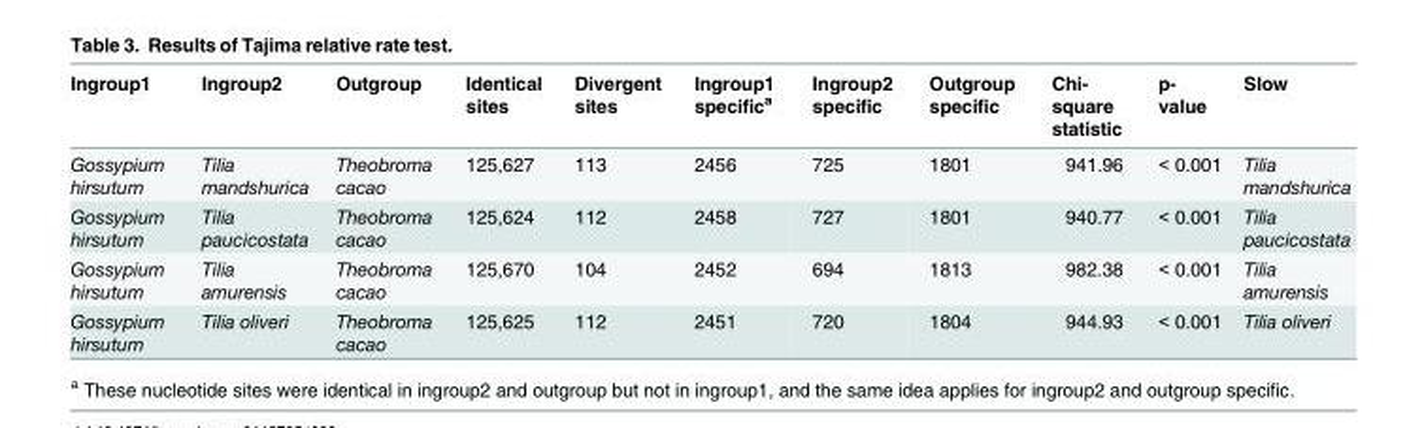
<table><thead><tr><td>Ingroup1</td><td>Ingroup2</td><td>Outgroup</td><td>Identical sites</td><td>Divergent sites</td><td>Ingroup1 specific<sup>a</sup></td><td>Ingroup2 specific</td><td>Outgroup specific</td><td>Chi- square statistic</td><td>p- value</td><td>Slow</td></tr></thead><tbody><tr><td>Gossypium hirsutum</td><td>Tilia mandshurica</td><td>Theobroma cacao</td><td>125,627</td><td>113</td><td>2456</td><td>725</td><td>1801</td><td>941.96</td><td>&lt; 0.001</td><td>Tilia mandshurica</td></tr><tr><td>Gossypium hirsutum</td><td>Tilia paucicostata</td><td>Theobroma cacao</td><td>125,624</td><td>112</td><td>2458</td><td>727</td><td>1801</td><td>940.77</td><td>&lt; 0.001</td><td>Tilia paucicostata</td></tr><tr><td>Gossypium hirsutum</td><td>Tilia amurensis</td><td>Theobroma cacao</td><td>125,670</td><td>104</td><td>2452</td><td>694</td><td>1813</td><td>982.38</td><td>&lt; 0.001</td><td>Tilia amurensis</td></tr><tr><td>Gossypium hirsutum</td><td>Tilia oliveri</td><td>Theobroma cacao</td><td>125,625</td><td>112</td><td>2451</td><td>720</td><td>1804</td><td>944.93</td><td>&lt; 0.001</td><td>Tilia oliveri</td></tr></tbody></table>